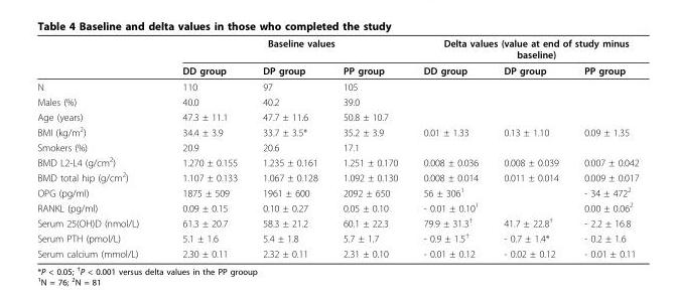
<table><thead><tr><td rowspan="2"></td><td colspan="3">Baseline values</td><td colspan="3">Delta values (value at end of study minus baseline)</td></tr><tr><td>DD group</td><td>DP group</td><td>PP group</td><td>DD group</td><td>DP group</td><td>PP group</td></tr></thead><tbody><tr><td>N</td><td>110</td><td>97</td><td>105</td><td></td><td></td><td></td></tr><tr><td>Males (%)</td><td>40.0</td><td>40.2</td><td>39.0</td><td></td><td></td><td></td></tr><tr><td>Age (years)</td><td>47.3 ± 11.1</td><td>47.7 ± 11.6</td><td>50.8 ± 10.7</td><td></td><td></td><td></td></tr><tr><td>BMI (kg/m<sup>2</sup>)</td><td>34.4 ± 3.9</td><td>33.7 ± 3.5*</td><td>35.2 ± 3.9</td><td>0.01 ± 1.33</td><td>0.13 ± 1.10</td><td>0.09 ± 1.35</td></tr><tr><td>Smokers (%)</td><td>20.9</td><td>20.6</td><td>17.1</td><td></td><td></td><td></td></tr><tr><td>BMD L2-L4 (g/cm<sup>2</sup>)</td><td>1.270 ± 0.155</td><td>1.235 ± 0.161</td><td>1.251 ± 0.170</td><td>0.008 ± 0.036</td><td>0.008 ± 0.039</td><td>0.007 ± 0.042</td></tr><tr><td>BMD total hip (g/cm<sup>2</sup>)</td><td>1.107 ± 0.133</td><td>1.067 ± 0.128</td><td>1.092 ± 0.130</td><td>0.008 ± 0.014</td><td>0.011 ± 0.014</td><td>0.009 ± 0.017</td></tr><tr><td>OPG (pg/ml)</td><td>1875 ± 509</td><td>1961 ± 600</td><td>2092 ± 650</td><td>56 ± 306<sup>1</sup></td><td></td><td>- 34 ± 472<sup>2</sup></td></tr><tr><td>RANKL (pg/ml)</td><td>0.09 ± 0.15</td><td>0.10 ± 0.27</td><td>0.05 ± 0.10</td><td>- 0.01 ± 0.10<sup>1</sup></td><td></td><td>0.00 ± 0.06<sup>2</sup></td></tr><tr><td>Serum 25(OH)D (nmol/L)</td><td>61.3 ± 20.7</td><td>58.3 ± 21.2</td><td>60.1 ± 22.3</td><td>79.9 ± 31.3<sup>†</sup></td><td>41.7 ± 22.8<sup>†</sup></td><td>- 2.2 ± 16.8</td></tr><tr><td>Serum PTH (pmol/L)</td><td>5.1 ± 1.6</td><td>5.4 ± 1.8</td><td>5.7 ± 1.7</td><td>- 0.9 ± 1.5<sup>†</sup></td><td>- 0.7 ± 1.4*</td><td>- 0.2 ± 1.6</td></tr><tr><td>Serum calcium (mmol/L)</td><td>2.30 ± 0.11</td><td>2.32 ± 0.11</td><td>2.31 ± 0.10</td><td>- 0.01 ± 0.12</td><td>- 0.02 ± 0.12</td><td>- 0.01 ± 0.11</td></tr></tbody></table>